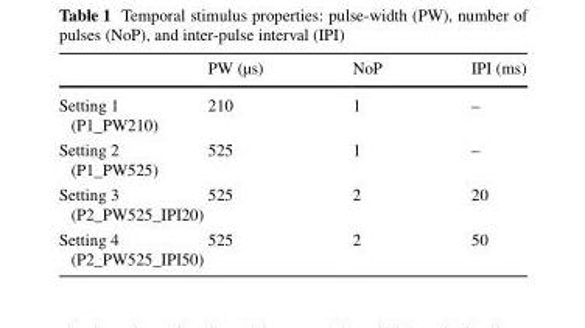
<table><thead><tr><td></td><td>PW (µs)</td><td>NoP</td><td>IPI (ms)</td></tr></thead><tbody><tr><td>Setting 1 (P1_PW210)</td><td>210</td><td>1</td><td>–</td></tr><tr><td>Setting 2 (P1_PW525)</td><td>525</td><td>1</td><td>–</td></tr><tr><td>Setting 3 (P2_PW525_IPI20)</td><td>525</td><td>2</td><td>20</td></tr><tr><td>Setting 4 (P2_PW525_IPI50)</td><td>525</td><td>2</td><td>50</td></tr></tbody></table>